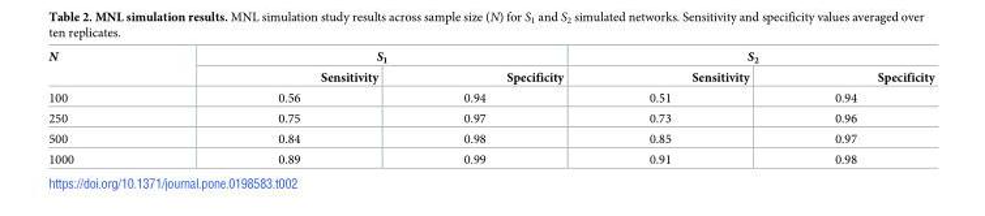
<table><thead><tr><td rowspan="2">N</td><td colspan="2">S<sub>1</sub></td><td colspan="2">S<sub>2</sub></td></tr><tr><td>Sensitivity</td><td>Specificity</td><td>Sensitivity</td><td>Specificity</td></tr></thead><tbody><tr><td>100</td><td>0.56</td><td>0.94</td><td>0.51</td><td>0.94</td></tr><tr><td>250</td><td>0.75</td><td>0.97</td><td>0.73</td><td>0.96</td></tr><tr><td>500</td><td>0.84</td><td>0.98</td><td>0.85</td><td>0.97</td></tr><tr><td>1000</td><td>0.89</td><td>0.99</td><td>0.91</td><td>0.98</td></tr></tbody></table>